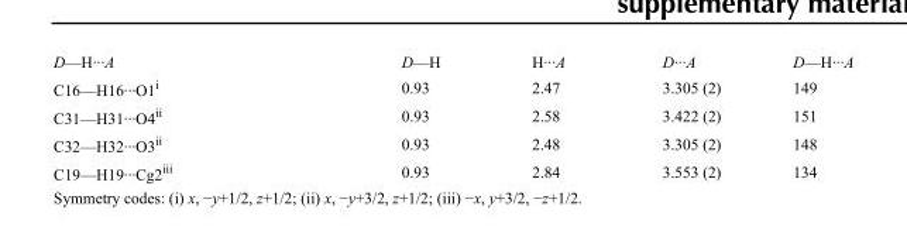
<table><tbody><tr><td>D—H···A</td><td>D—H</td><td>H···A</td><td>D···A</td><td>D—H···A</td></tr><tr><td>C16—H16···O1<sup>i</sup></td><td>0.93</td><td>2.47</td><td>3.305 (2)</td><td>149</td></tr><tr><td>C31—H31···O4<sup>ii</sup></td><td>0.93</td><td>2.58</td><td>3.422 (2)</td><td>151</td></tr><tr><td>C32—H32···O3<sup>ii</sup></td><td>0.93</td><td>2.48</td><td>3.305 (2)</td><td>148</td></tr><tr><td>C19—H19···Cg2<sup>iii</sup></td><td>0.93</td><td>2.84</td><td>3.553 (2)</td><td>134</td></tr></tbody></table>